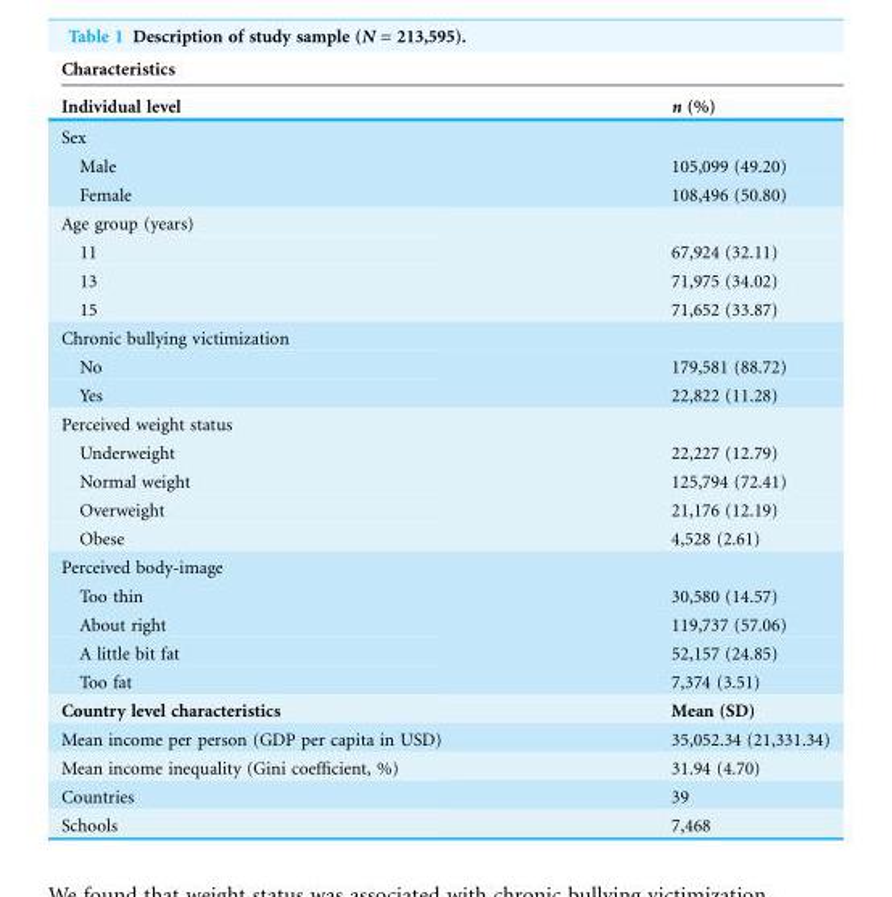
<table><thead><tr><td colspan="2">Characteristics</td></tr><tr><td>Individual level</td><td>n (%)</td></tr></thead><tbody><tr><td colspan="2">Sex</td></tr><tr><td>Male</td><td>105,099 (49.20)</td></tr><tr><td>Female</td><td>108,496 (50.80)</td></tr><tr><td colspan="2">Age group (years)</td></tr><tr><td>11</td><td>67,924 (32.11)</td></tr><tr><td>13</td><td>71,975 (34.02)</td></tr><tr><td>15</td><td>71,652 (33.87)</td></tr><tr><td colspan="2">Chronic bullying victimization</td></tr><tr><td>No</td><td>179,581 (88.72)</td></tr><tr><td>Yes</td><td>22,822 (11.28)</td></tr><tr><td colspan="2">Perceived weight status</td></tr><tr><td>Underweight</td><td>22,227 (12.79)</td></tr><tr><td>Normal weight</td><td>125,794 (72.41)</td></tr><tr><td>Overweight</td><td>21,176 (12.19)</td></tr><tr><td>Obese</td><td>4,528 (2.61)</td></tr><tr><td colspan="2">Perceived body-image</td></tr><tr><td>Too thin</td><td>30,580 (14.57)</td></tr><tr><td>About right</td><td>119,737 (57.06)</td></tr><tr><td>A little bit fat</td><td>52,157 (24.85)</td></tr><tr><td>Too fat</td><td>7,374 (3.51)</td></tr><tr><td>Country level characteristics</td><td>Mean (SD)</td></tr><tr><td>Mean income per person (GDP per capita in USD)</td><td>35,052.34 (21,331.34)</td></tr><tr><td>Mean income inequality (Gini coefficient, %)</td><td>31.94 (4.70)</td></tr><tr><td>Countries</td><td>39</td></tr><tr><td>Schools</td><td>7,468</td></tr></tbody></table>